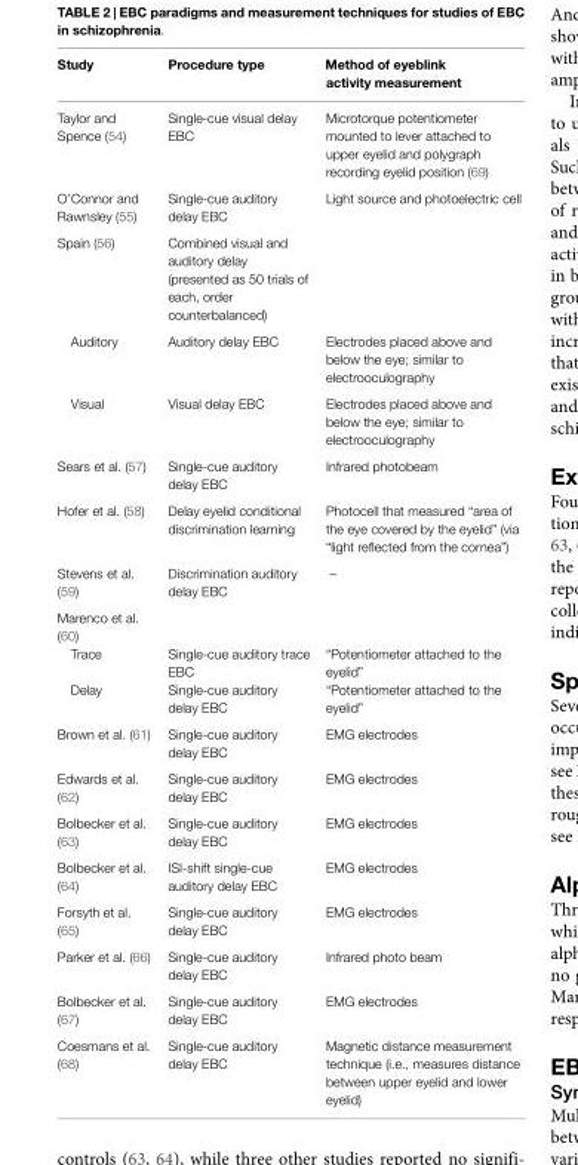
<table><thead><tr><td>Study</td><td>Procedure type</td><td>Method of eyeblink activity measurement</td></tr></thead><tbody><tr><td>Taylor and Spence (54)</td><td>Single-cue visual delay EBC</td><td>Microtorque potentiometer mounted to lever attached to upper eyelid and polygraph recording eyelid position (69)</td></tr><tr><td>O’Connor and Rawnsley (55)</td><td>Single-cue auditory delay EBC</td><td>Light source and photoelectric cell</td></tr><tr><td>Spain (56)</td><td>Combined visual and auditory delay (presented as 50 trials of each, order counterbalanced)</td><td></td></tr><tr><td>Auditory</td><td>Auditory delay EBC</td><td>Electrodes placed above and below the eye; similar to electrooculography</td></tr><tr><td>Visual</td><td>Visual delay EBC</td><td>Electrodes placed above and below the eye; similar to electrooculography</td></tr><tr><td>Sears et al. (57)</td><td>Single-cue auditory delay EBC</td><td>Infrared photobeam</td></tr><tr><td>Hofer et al. (58)</td><td>Delay eyelid conditional discrimination learning</td><td>Photocell that measured “area of the eye covered by the eyelid” (via “light reflected from the cornea”)</td></tr><tr><td>Stevens et al. (59)</td><td>Discrimination auditory delay EBC</td><td>–</td></tr><tr><td colspan="3">Marenco et al. (60)</td></tr><tr><td>Trace</td><td>Single-cue auditory trace EBC</td><td>“Potentiometer attached to the eyelid”</td></tr><tr><td>Delay</td><td>Single-cue auditory delay EBC</td><td>“Potentiometer attached to the eyelid”</td></tr><tr><td>Brown et al. (61)</td><td>Single-cue auditory delay EBC</td><td>EMG electrodes</td></tr><tr><td>Edwards et al. (62)</td><td>Single-cue auditory delay EBC</td><td>EMG electrodes</td></tr><tr><td>Bolbecker et al. (63)</td><td>Single-cue auditory delay EBC</td><td>EMG electrodes</td></tr><tr><td>Bolbecker et al. (64)</td><td>ISI-shift single-cue auditory delay EBC</td><td>EMG electrodes</td></tr><tr><td>Forsyth et al. (65)</td><td>Single-cue auditory delay EBC</td><td>EMG electrodes</td></tr><tr><td>Parker et al. (66)</td><td>Single-cue auditory delay EBC</td><td>Infrared photo beam</td></tr><tr><td>Bolbecker et al. (67)</td><td>Single-cue auditory delay EBC</td><td>EMG electrodes</td></tr><tr><td>Coesmans et al. (68)</td><td>Single-cue auditory delay EBC</td><td>Magnetic distance measurement technique (i.e., measures distance between upper eyelid and lower eyelid)</td></tr></tbody></table>